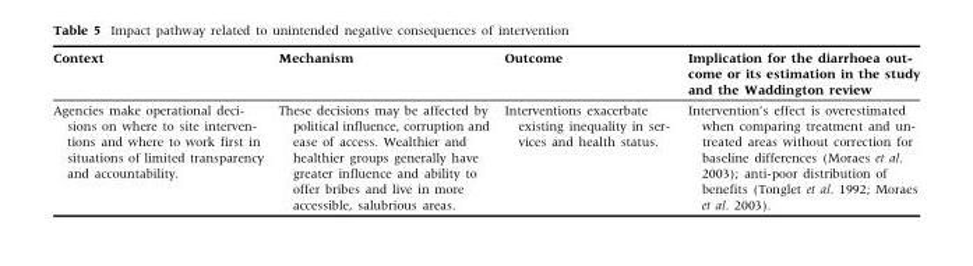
<table><thead><tr><td>Context</td><td>Mechanism</td><td>Outcome</td><td>Implication for the diarrhoea out- come or its estimation in the study and the Waddington review</td></tr></thead><tbody><tr><td>Agencies make operational deci- sions on where to site interven- tions and where to work first in situations of limited transparency and accountability.</td><td>These decisions may be affected by political influence, corruption and ease of access. Wealthier and healthier groups generally have greater influence and ability to offer bribes and live in more accessible, salubrious areas.</td><td>Interventions exacerbate existing inequality in ser- vices and health status.</td><td>Intervention’s effect is overestimated when comparing treatment and un- treated areas without correction for baseline differences (Moraes et al. 2003); anti-poor distribution of benefits (Tonglet et al. 1992; Moraes et al. 2003).</td></tr></tbody></table>